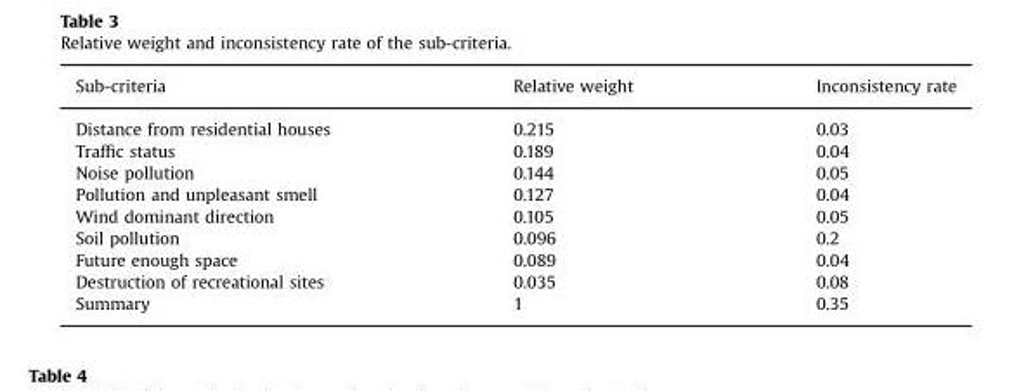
<table><thead><tr><td>Sub-criteria</td><td>Relative weight</td><td>Inconsistency rate</td></tr></thead><tbody><tr><td>Distance from residential houses</td><td>0.215</td><td>0.03</td></tr><tr><td>Traffic status</td><td>0.189</td><td>0.04</td></tr><tr><td>Noise pollution</td><td>0.144</td><td>0.05</td></tr><tr><td>Pollution and unpleasant smell</td><td>0.127</td><td>0.04</td></tr><tr><td>Wind dominant direction</td><td>0.105</td><td>0.05</td></tr><tr><td>Soil pollution</td><td>0.096</td><td>0.2</td></tr><tr><td>Future enough space</td><td>0.089</td><td>0.04</td></tr><tr><td>Destruction of recreational sites</td><td>0.035</td><td>0.08</td></tr><tr><td>Summary</td><td>1</td><td>0.35</td></tr></tbody></table>